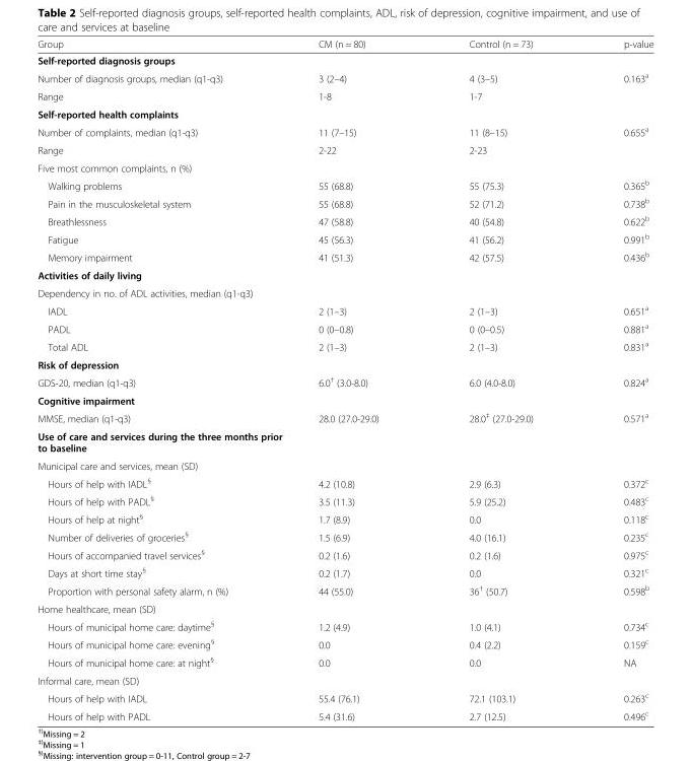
<table><thead><tr><td>Group</td><td>CM (n = 80)</td><td>Control (n = 73)</td><td>p-value</td></tr></thead><tbody><tr><td colspan="4">Self-reported diagnosis groups</td></tr><tr><td>Number of diagnosis groups, median (q1-q3)</td><td>3 (2–4)</td><td>4 (3–5)</td><td>0.163<sup>a</sup></td></tr><tr><td>Range</td><td>1-8</td><td>1-7</td><td></td></tr><tr><td colspan="4">Self-reported health complaints</td></tr><tr><td>Number of complaints, median (q1-q3)</td><td>11 (7–15)</td><td>11 (8–15)</td><td>0.655<sup>a</sup></td></tr><tr><td>Range</td><td>2-22</td><td>2-23</td><td></td></tr><tr><td colspan="4">Five most common complaints, n (%)</td></tr><tr><td>Walking problems</td><td>55 (68.8)</td><td>55 (75.3)</td><td>0.365<sup>b</sup></td></tr><tr><td>Pain in the musculoskeletal system</td><td>55 (68.8)</td><td>52 (71.2)</td><td>0.738<sup>b</sup></td></tr><tr><td>Breathlessness</td><td>47 (58.8)</td><td>40 (54.8)</td><td>0.622<sup>b</sup></td></tr><tr><td>Fatigue</td><td>45 (56.3)</td><td>41 (56.2)</td><td>0.991<sup>b</sup></td></tr><tr><td>Memory impairment</td><td>41 (51.3)</td><td>42 (57.5)</td><td>0.436<sup>b</sup></td></tr><tr><td colspan="4">Activities of daily living</td></tr><tr><td colspan="4">Dependency in no. of ADL activities, median (q1-q3)</td></tr><tr><td>IADL</td><td>2 (1–3)</td><td>2 (1–3)</td><td>0.651<sup>a</sup></td></tr><tr><td>PADL</td><td>0 (0–0.8)</td><td>0 (0–0.5)</td><td>0.881<sup>a</sup></td></tr><tr><td>Total ADL</td><td>2 (1–3)</td><td>2 (1–3)</td><td>0.831<sup>a</sup></td></tr><tr><td colspan="4">Risk of depression</td></tr><tr><td>GDS-20, median (q1-q3)</td><td>6.0<sup>†</sup> (3.0-8.0)</td><td>6.0 (4.0-8.0)</td><td>0.824<sup>a</sup></td></tr><tr><td colspan="4">Cognitive impairment</td></tr><tr><td>MMSE, median (q1-q3)</td><td>28.0 (27.0-29.0)</td><td>28.0<sup>‡</sup> (27.0-29.0)</td><td>0.571<sup>a</sup></td></tr><tr><td colspan="4">Use of care and services during the three months prior to baseline</td></tr><tr><td colspan="4">Municipal care and services, mean (SD)</td></tr><tr><td>Hours of help with IADL<sup>§</sup></td><td>4.2 (10.8)</td><td>2.9 (6.3)</td><td>0.372<sup>c</sup></td></tr><tr><td>Hours of help with PADL<sup>§</sup></td><td>3.5 (11.3)</td><td>5.9 (25.2)</td><td>0.483<sup>c</sup></td></tr><tr><td>Hours of help at night<sup>§</sup></td><td>1.7 (8.9)</td><td>0.0</td><td>0.118<sup>c</sup></td></tr><tr><td>Number of deliveries of groceries<sup>§</sup></td><td>1.5 (6.9)</td><td>4.0 (16.1)</td><td>0.235<sup>c</sup></td></tr><tr><td>Hours of accompanied travel services<sup>§</sup></td><td>0.2 (1.6)</td><td>0.2 (1.6)</td><td>0.975<sup>c</sup></td></tr><tr><td>Days at short time stay<sup>§</sup></td><td>0.2 (1.7)</td><td>0.0</td><td>0.321<sup>c</sup></td></tr><tr><td>Proportion with personal safety alarm, n (%)</td><td>44 (55.0)</td><td>36<sup>†</sup> (50.7)</td><td>0.598<sup>b</sup></td></tr><tr><td colspan="4">Home healthcare, mean (SD)</td></tr><tr><td>Hours of municipal home care: daytime<sup>§</sup></td><td>1.2 (4.9)</td><td>1.0 (4.1)</td><td>0.734<sup>c</sup></td></tr><tr><td>Hours of municipal home care: evening<sup>§</sup></td><td>0.0</td><td>0.4 (2.2)</td><td>0.159<sup>c</sup></td></tr><tr><td>Hours of municipal home care: at night<sup>§</sup></td><td>0.0</td><td>0.0</td><td>NA</td></tr><tr><td colspan="4">Informal care, mean (SD)</td></tr><tr><td>Hours of help with IADL</td><td>55.4 (76.1)</td><td>72.1 (103.1)</td><td>0.263<sup>c</sup></td></tr><tr><td>Hours of help with PADL</td><td>5.4 (31.6)</td><td>2.7 (12.5)</td><td>0.496<sup>c</sup></td></tr></tbody></table>